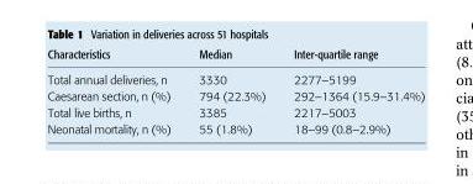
<table><thead><tr><td>Characteristics</td><td>Median</td><td>Inter-quartile range</td></tr></thead><tbody><tr><td>Total annual deliveries, n</td><td>3330</td><td>2277–5199</td></tr><tr><td>Caesarean section, n (%)</td><td>794 (22.3%)</td><td>292–1364 (15.9–31.4%)</td></tr><tr><td>Total live births, n</td><td>3385</td><td>2217–5003</td></tr><tr><td>Neonatal mortality, n (%)</td><td>55 (1.8%)</td><td>18–99 (0.8–2.9%)</td></tr></tbody></table>